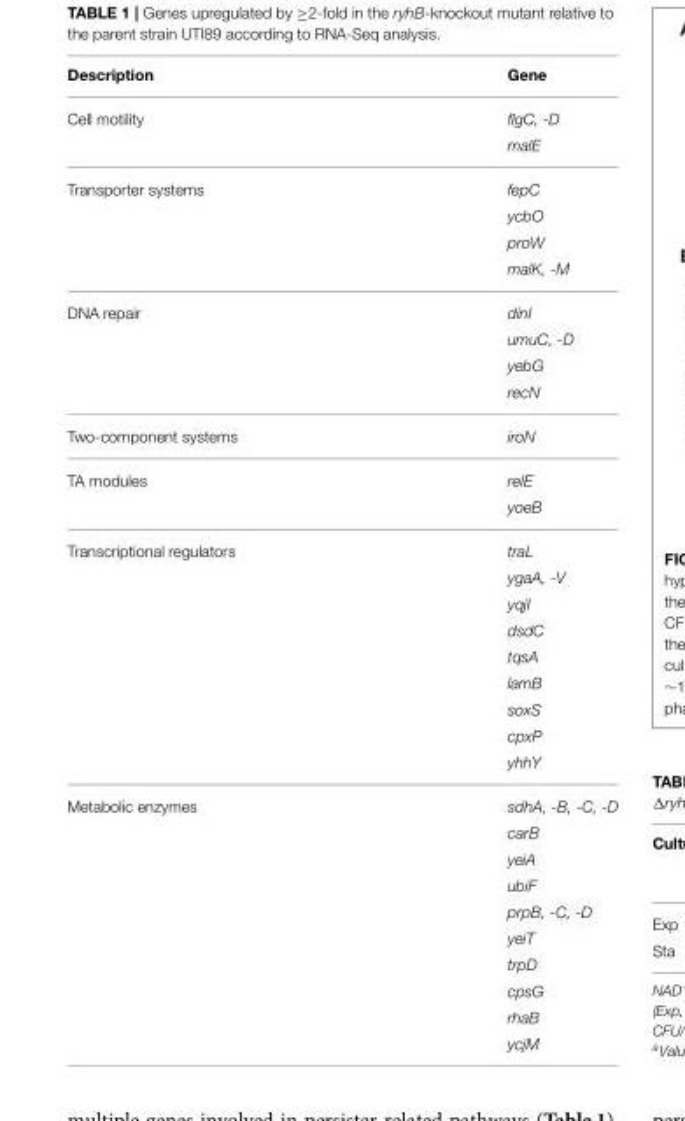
<table><thead><tr><td>Description</td><td>Gene</td></tr></thead><tbody><tr><td rowspan="2">Cell motility</td><td>flgC, -D</td></tr><tr><td>malE</td></tr><tr><td rowspan="4">Transporter systems</td><td>fepC</td></tr><tr><td>ycbO</td></tr><tr><td>proW</td></tr><tr><td>malK, -M</td></tr><tr><td rowspan="4">DNA repair</td><td>dinI</td></tr><tr><td>umuC, -D</td></tr><tr><td>yebG</td></tr><tr><td>recN</td></tr><tr><td>Two-component systems</td><td>iroN</td></tr><tr><td rowspan="2">TA modules</td><td>relE</td></tr><tr><td>yoeB</td></tr><tr><td rowspan="9">Transcriptional regulators</td><td>traL</td></tr><tr><td>ygaA, -V</td></tr><tr><td>yqjI</td></tr><tr><td>dsdC</td></tr><tr><td>tqsA</td></tr><tr><td>lamB</td></tr><tr><td>soxS</td></tr><tr><td>cpxP</td></tr><tr><td>yhhY</td></tr><tr><td rowspan="10">Metabolic enzymes</td><td>sdhA, -B, -C, -D</td></tr><tr><td>carB</td></tr><tr><td>yeiA</td></tr><tr><td>ubiF</td></tr><tr><td>prpB, -C, -D</td></tr><tr><td>yeiT</td></tr><tr><td>trpD</td></tr><tr><td>cpsG</td></tr><tr><td>rhaB</td></tr><tr><td>ycjM</td></tr></tbody></table>